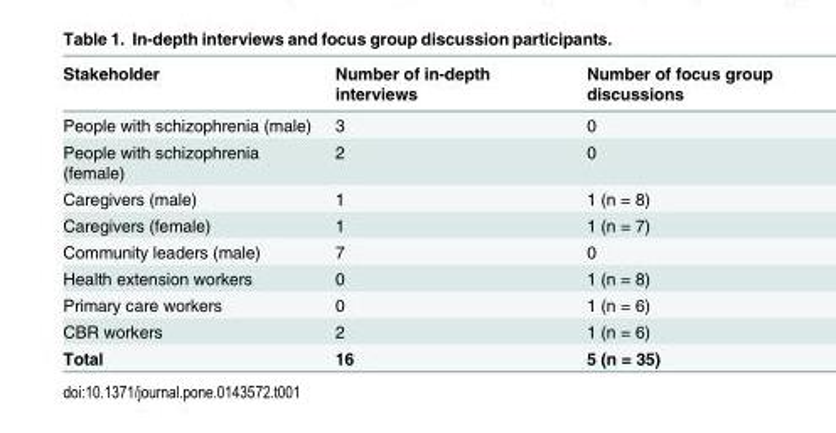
<table><thead><tr><td>Stakeholder</td><td>Number of in-depth interviews</td><td>Number of focus group discussions</td></tr></thead><tbody><tr><td>People with schizophrenia (male)</td><td>3</td><td>0</td></tr><tr><td>People with schizophrenia (female)</td><td>2</td><td>0</td></tr><tr><td>Caregivers (male)</td><td>1</td><td>1 (n = 8)</td></tr><tr><td>Caregivers (female)</td><td>1</td><td>1 (n = 7)</td></tr><tr><td>Community leaders (male)</td><td>7</td><td>0</td></tr><tr><td>Health extension workers</td><td>0</td><td>1 (n = 8)</td></tr><tr><td>Primary care workers</td><td>0</td><td>1 (n = 6)</td></tr><tr><td>CBR workers</td><td>2</td><td>1 (n = 6)</td></tr><tr><td>Total</td><td>16</td><td>5 (n = 35)</td></tr></tbody></table>